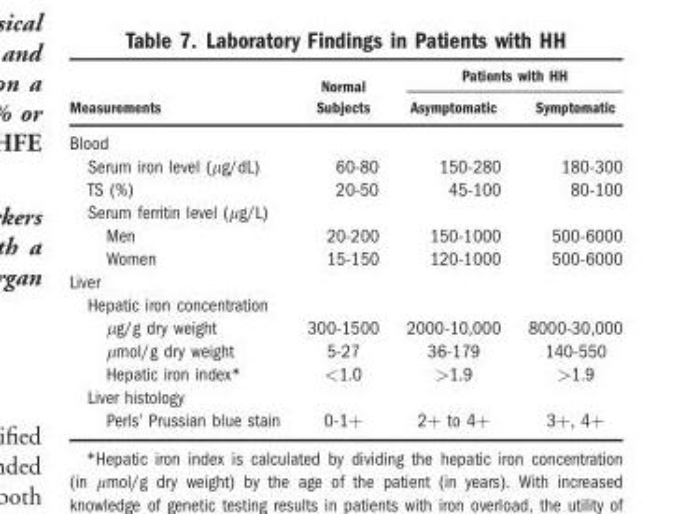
<table><thead><tr><td rowspan="2">Measurements</td><td rowspan="2">Normal Subjects</td><td colspan="2">Patients with HH</td></tr><tr><td>Asymptomatic</td><td>Symptomatic</td></tr></thead><tbody><tr><td colspan="4">Blood</td></tr><tr><td>Serum iron level (μg/dL)</td><td>60-80</td><td>150-280</td><td>180-300</td></tr><tr><td>TS (%)</td><td>20-50</td><td>45-100</td><td>80-100</td></tr><tr><td colspan="4">Serum ferritin level (μg/L)</td></tr><tr><td>Men</td><td>20-200</td><td>150-1000</td><td>500-6000</td></tr><tr><td>Women</td><td>15-150</td><td>120-1000</td><td>500-6000</td></tr><tr><td colspan="4">Liver</td></tr><tr><td colspan="4">Hepatic iron concentration</td></tr><tr><td>μg/g dry weight</td><td>300-1500</td><td>2000-10,000</td><td>8000-30,000</td></tr><tr><td>μmol/g dry weight</td><td>5-27</td><td>36-179</td><td>140-550</td></tr><tr><td>Hepatic iron index*</td><td>&lt;1.0</td><td>&gt;1.9</td><td>&gt;1.9</td></tr><tr><td colspan="4">Liver histology</td></tr><tr><td>Perls’ Prussian blue stain</td><td>0-1+</td><td>2+ to 4+</td><td>3+, 4+</td></tr></tbody></table>